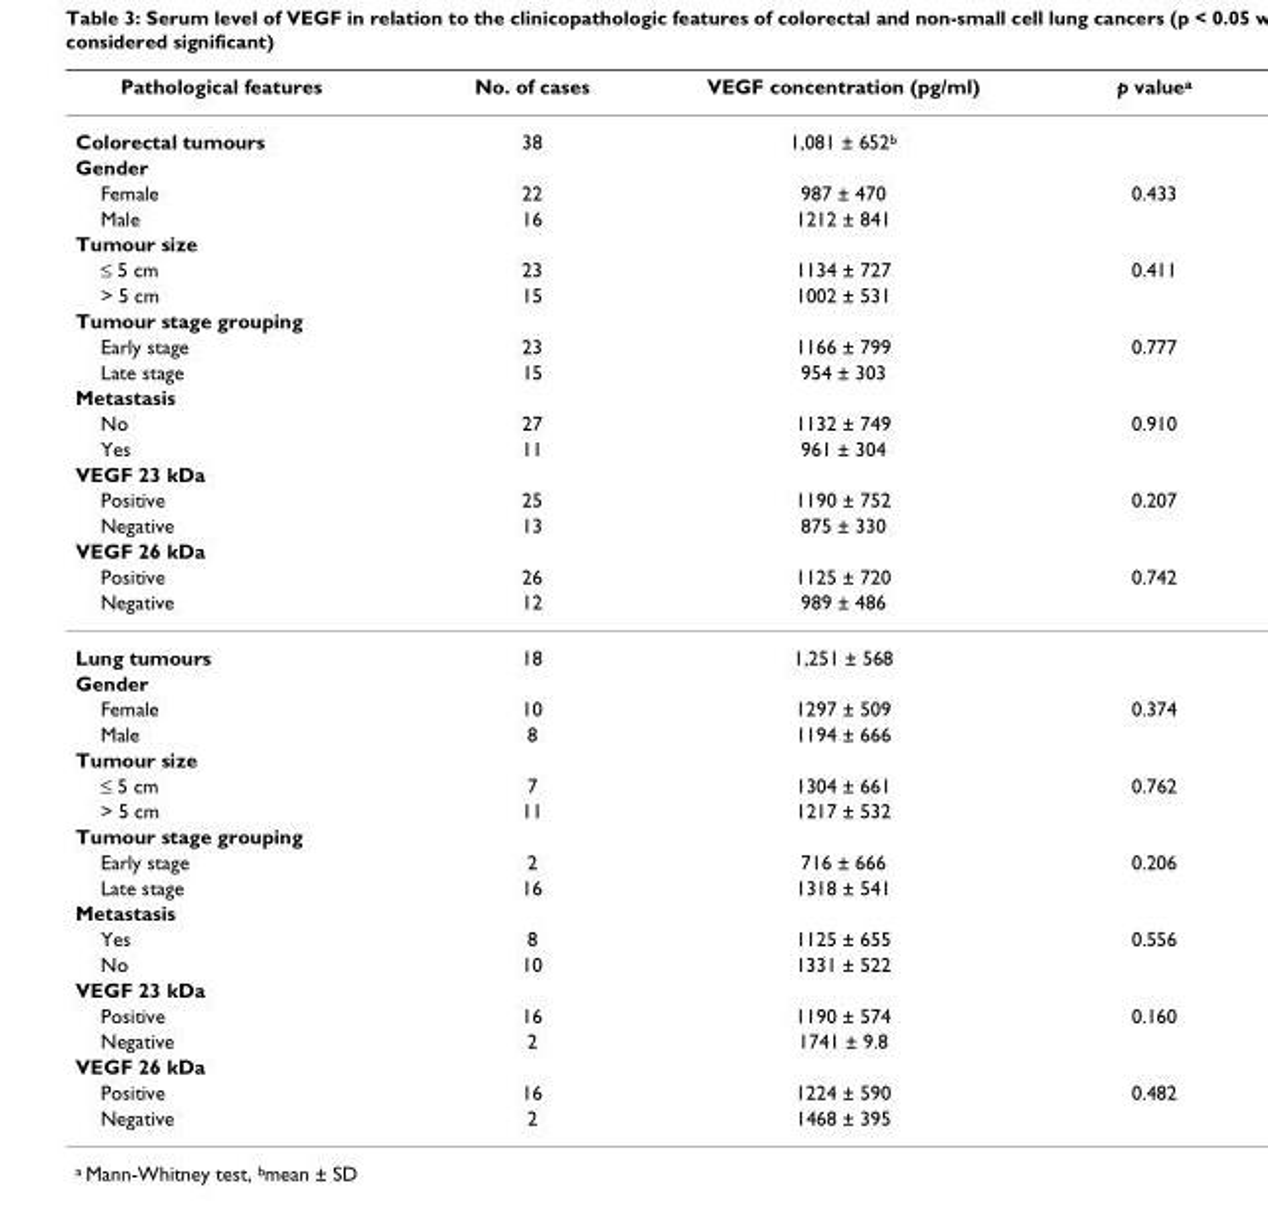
<table><thead><tr><td>Pathological features</td><td>No. of cases</td><td>VEGF concentration (pg/ml)</td><td>p value<sup>a</sup></td></tr></thead><tbody><tr><td>Colorectal tumours</td><td>38</td><td>1,081 ± 652<sup>b</sup></td><td></td></tr><tr><td colspan="4">Gender</td></tr><tr><td>Female</td><td>22</td><td>987 ± 470</td><td>0.433</td></tr><tr><td>Male</td><td>16</td><td>1212 ± 841</td><td></td></tr><tr><td colspan="4">Tumour size</td></tr><tr><td>≤ 5 cm</td><td>23</td><td>1134 ± 727</td><td>0.411</td></tr><tr><td>&gt; 5 cm</td><td>15</td><td>1002 ± 531</td><td></td></tr><tr><td colspan="4">Tumour stage grouping</td></tr><tr><td>Early stage</td><td>23</td><td>1166 ± 799</td><td>0.777</td></tr><tr><td>Late stage</td><td>15</td><td>954 ± 303</td><td></td></tr><tr><td colspan="4">Metastasis</td></tr><tr><td>No</td><td>27</td><td>1132 ± 749</td><td>0.910</td></tr><tr><td>Yes</td><td>11</td><td>961 ± 304</td><td></td></tr><tr><td colspan="4">VEGF 23 kDa</td></tr><tr><td>Positive</td><td>25</td><td>1190 ± 752</td><td>0.207</td></tr><tr><td>Negative</td><td>13</td><td>875 ± 330</td><td></td></tr><tr><td colspan="4">VEGF 26 kDa</td></tr><tr><td>Positive</td><td>26</td><td>1125 ± 720</td><td>0.742</td></tr><tr><td>Negative</td><td>12</td><td>989 ± 486</td><td></td></tr><tr><td>Lung tumours</td><td>18</td><td>1,251 ± 568</td><td></td></tr><tr><td colspan="4">Gender</td></tr><tr><td>Female</td><td>10</td><td>1297 ± 509</td><td>0.374</td></tr><tr><td>Male</td><td>8</td><td>1194 ± 666</td><td></td></tr><tr><td colspan="4">Tumour size</td></tr><tr><td>≤ 5 cm</td><td>7</td><td>1304 ± 661</td><td>0.762</td></tr><tr><td>&gt; 5 cm</td><td>11</td><td>1217 ± 532</td><td></td></tr><tr><td colspan="4">Tumour stage grouping</td></tr><tr><td>Early stage</td><td>2</td><td>716 ± 666</td><td>0.206</td></tr><tr><td>Late stage</td><td>16</td><td>1318 ± 541</td><td></td></tr><tr><td colspan="4">Metastasis</td></tr><tr><td>Yes</td><td>8</td><td>1125 ± 655</td><td>0.556</td></tr><tr><td>No</td><td>10</td><td>1331 ± 522</td><td></td></tr><tr><td colspan="4">VEGF 23 kDa</td></tr><tr><td>Positive</td><td>16</td><td>1190 ± 574</td><td>0.160</td></tr><tr><td>Negative</td><td>2</td><td>1741 ± 9.8</td><td></td></tr><tr><td colspan="4">VEGF 26 kDa</td></tr><tr><td>Positive</td><td>16</td><td>1224 ± 590</td><td>0.482</td></tr><tr><td>Negative</td><td>2</td><td>1468 ± 395</td><td></td></tr></tbody></table>